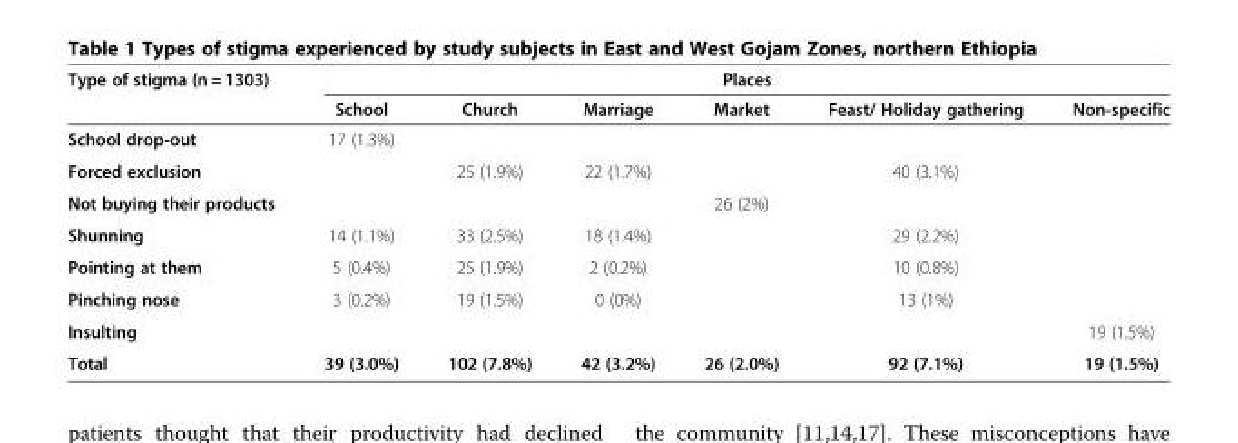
<table><thead><tr><td rowspan="2">Type of stigma (n = 1303)</td><td colspan="6">Places</td></tr><tr><td>School</td><td>Church</td><td>Marriage</td><td>Market</td><td>Feast/ Holiday gathering</td><td>Non-specific</td></tr></thead><tbody><tr><td>School drop-out</td><td>17 (1.3%)</td><td></td><td></td><td></td><td></td><td></td></tr><tr><td>Forced exclusion</td><td></td><td>25 (1.9%)</td><td>22 (1.7%)</td><td></td><td>40 (3.1%)</td><td></td></tr><tr><td>Not buying their products</td><td></td><td></td><td></td><td>26 (2%)</td><td></td><td></td></tr><tr><td>Shunning</td><td>14 (1.1%)</td><td>33 (2.5%)</td><td>18 (1.4%)</td><td></td><td>29 (2.2%)</td><td></td></tr><tr><td>Pointing at them</td><td>5 (0.4%)</td><td>25 (1.9%)</td><td>2 (0.2%)</td><td></td><td>10 (0.8%)</td><td></td></tr><tr><td>Pinching nose</td><td>3 (0.2%)</td><td>19 (1.5%)</td><td>0 (0%)</td><td></td><td>13 (1%)</td><td></td></tr><tr><td>Insulting</td><td></td><td></td><td></td><td></td><td></td><td>19 (1.5%)</td></tr><tr><td>Total</td><td>39 (3.0%)</td><td>102 (7.8%)</td><td>42 (3.2%)</td><td>26 (2.0%)</td><td>92 (7.1%)</td><td>19 (1.5%)</td></tr></tbody></table>